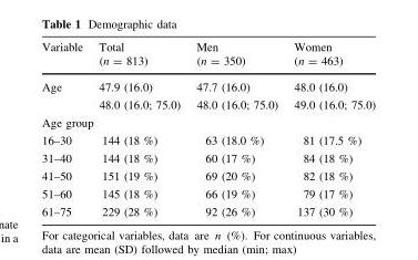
<table><thead><tr><td>Variable</td><td>Total (n = 813)</td><td>Men (n = 350)</td><td>Women (n = 463)</td></tr></thead><tbody><tr><td>Age</td><td>47.9 (16.0) 48.0 (16.0; 75.0)</td><td>47.7 (16.0) 48.0 (16.0; 75.0)</td><td>48.0 (16.0) 49.0 (16.0; 75.0)</td></tr><tr><td colspan="4">Age group</td></tr><tr><td>16–30</td><td>144 (18 %)</td><td>63 (18.0 %)</td><td>81 (17.5 %)</td></tr><tr><td>31–40</td><td>144 (18 %)</td><td>60 (17 %)</td><td>84 (18 %)</td></tr><tr><td>41–50</td><td>151 (19 %)</td><td>69 (20 %)</td><td>82 (18 %)</td></tr><tr><td>51–60</td><td>145 (18 %)</td><td>66 (19 %)</td><td>79 (17 %)</td></tr><tr><td>61–75</td><td>229 (28 %)</td><td>92 (26 %)</td><td>137 (30 %)</td></tr></tbody></table>